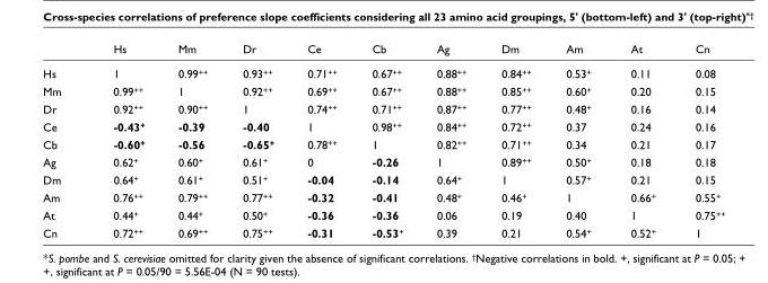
<table><thead><tr><td></td><td>Hs</td><td>Mm</td><td>Dr</td><td>Ce</td><td>Cb</td><td>Ag</td><td>Dm</td><td>Am</td><td>At</td><td>Cn</td></tr></thead><tbody><tr><td>Hs</td><td>1</td><td>0.99<sup>++</sup></td><td>0.93<sup>++</sup></td><td>0.71<sup>++</sup></td><td>0.67<sup>++</sup></td><td>0.88<sup>++</sup></td><td>0.84<sup>++</sup></td><td>0.53<sup>+</sup></td><td>0.11</td><td>0.08</td></tr><tr><td>Mm</td><td>0.99<sup>++</sup></td><td>1</td><td>0.92<sup>++</sup></td><td>0.69<sup>++</sup></td><td>0.67<sup>++</sup></td><td>0.88<sup>++</sup></td><td>0.85<sup>++</sup></td><td>0.60<sup>+</sup></td><td>0.20</td><td>0.15</td></tr><tr><td>Dr</td><td>0.92<sup>++</sup></td><td>0.90<sup>++</sup></td><td>1</td><td>0.74<sup>++</sup></td><td>0.71<sup>++</sup></td><td>0.87<sup>++</sup></td><td>0.77<sup>++</sup></td><td>0.48<sup>+</sup></td><td>0.16</td><td>0.14</td></tr><tr><td>Ce</td><td>-0.43<sup>+</sup></td><td>-0.39</td><td>-0.40</td><td>1</td><td>0.98<sup>++</sup></td><td>0.84<sup>++</sup></td><td>0.72<sup>++</sup></td><td>0.37</td><td>0.24</td><td>0.16</td></tr><tr><td>Cb</td><td>-0.60<sup>+</sup></td><td>-0.56</td><td>-0.65<sup>+</sup></td><td>0.78<sup>++</sup></td><td>1</td><td>0.82<sup>++</sup></td><td>0.71<sup>++</sup></td><td>0.34</td><td>0.21</td><td>0.17</td></tr><tr><td>Ag</td><td>0.62<sup>+</sup></td><td>0.60<sup>+</sup></td><td>0.61<sup>+</sup></td><td>0</td><td>-0.26</td><td>1</td><td>0.89<sup>++</sup></td><td>0.50<sup>+</sup></td><td>0.18</td><td>0.18</td></tr><tr><td>Dm</td><td>0.64<sup>+</sup></td><td>0.61<sup>+</sup></td><td>0.51<sup>+</sup></td><td>-0.04</td><td>-0.14</td><td>0.64<sup>+</sup></td><td>1</td><td>0.57<sup>+</sup></td><td>0.21</td><td>0.15</td></tr><tr><td>Am</td><td>0.76<sup>++</sup></td><td>0.79<sup>++</sup></td><td>0.77<sup>++</sup></td><td>-0.32</td><td>-0.41</td><td>0.48<sup>+</sup></td><td>0.46<sup>+</sup></td><td>1</td><td>0.66<sup>+</sup></td><td>0.55<sup>+</sup></td></tr><tr><td>At</td><td>0.44<sup>+</sup></td><td>0.44<sup>+</sup></td><td>0.50<sup>+</sup></td><td>-0.36</td><td>-0.36</td><td>0.06</td><td>0.19</td><td>0.40</td><td>1</td><td>0.75<sup>++</sup></td></tr><tr><td>Cn</td><td>0.72<sup>++</sup></td><td>0.69<sup>++</sup></td><td>0.75<sup>++</sup></td><td>-0.31</td><td>-0.53<sup>+</sup></td><td>0.39</td><td>0.21</td><td>0.54<sup>+</sup></td><td>0.52<sup>+</sup></td><td>1</td></tr></tbody></table>